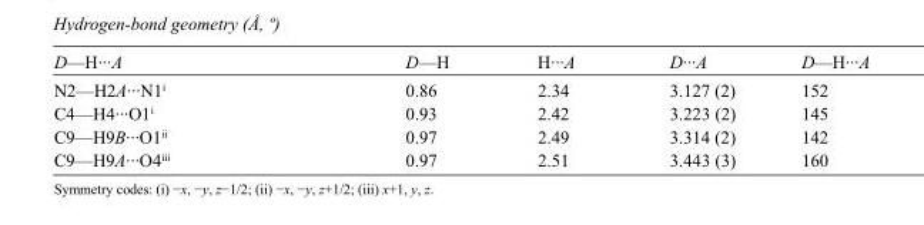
<table><tbody><tr><td>D—H···A</td><td>D—H</td><td>H···A</td><td>D···A</td><td>D—H···A</td></tr><tr><td>N2—H2A···N1<sup>i</sup></td><td>0.86</td><td>2.34</td><td>3.127 (2)</td><td>152</td></tr><tr><td>C4—H4···O1<sup>i</sup></td><td>0.93</td><td>2.42</td><td>3.223 (2)</td><td>145</td></tr><tr><td>C9—H9B···O1<sup>ii</sup></td><td>0.97</td><td>2.49</td><td>3.314 (2)</td><td>142</td></tr><tr><td>C9—H9A···O4<sup>iii</sup></td><td>0.97</td><td>2.51</td><td>3.443 (3)</td><td>160</td></tr></tbody></table>